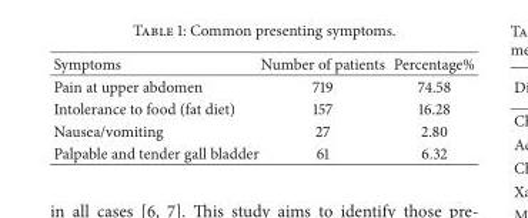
<table><thead><tr><td>Symptoms</td><td>Number of patients</td><td>Percentage%</td></tr></thead><tbody><tr><td>Pain at upper abdomen</td><td>719</td><td>74.58</td></tr><tr><td>Intolerance to food (fat diet)</td><td>157</td><td>16.28</td></tr><tr><td>Nausea/vomiting</td><td>27</td><td>2.80</td></tr><tr><td>Palpable and tender gall bladder</td><td>61</td><td>6.32</td></tr></tbody></table>